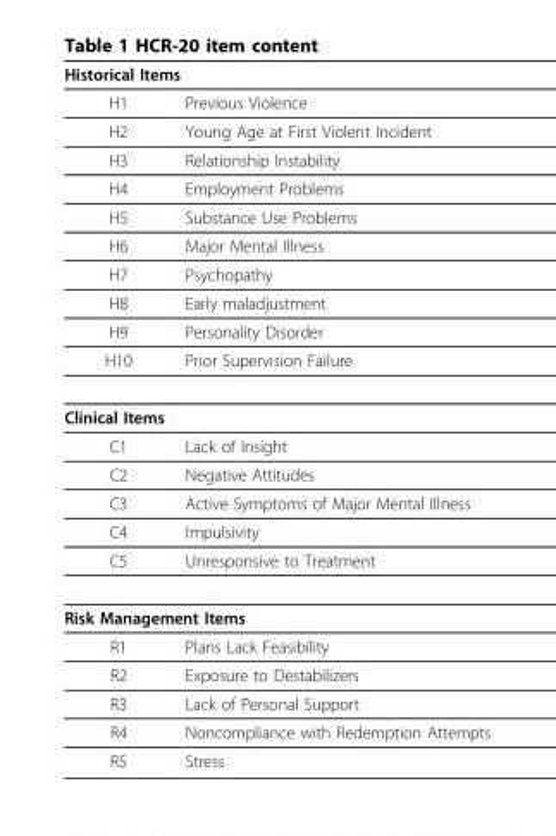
<table><thead><tr><td colspan="2">Historical Items</td></tr><tr><td>H1</td><td>Previous Violence</td></tr></thead><tbody><tr><td>H2</td><td>Young Age at First Violent Incident</td></tr><tr><td>H3</td><td>Relationship Instability</td></tr><tr><td>H4</td><td>Employment Problems</td></tr><tr><td>H5</td><td>Substance Use Problems</td></tr><tr><td>H6</td><td>Major Mental Illness</td></tr><tr><td>H7</td><td>Psychopathy</td></tr><tr><td>H8</td><td>Early maladjustment</td></tr><tr><td>H9</td><td>Personality Disorder</td></tr><tr><td>H10</td><td>Prior Supervision Failure</td></tr><tr><td colspan="2">Clinical Items</td></tr><tr><td>C1</td><td>Lack of Insight</td></tr><tr><td>C2</td><td>Negative Attitudes</td></tr><tr><td>C3</td><td>Active Symptoms of Major Mental Illness</td></tr><tr><td>C4</td><td>Impulsivity</td></tr><tr><td>C5</td><td>Unresponsive to Treatment</td></tr><tr><td colspan="2">Risk Management Items</td></tr><tr><td>R1</td><td>Plans Lack Feasibility</td></tr><tr><td>R2</td><td>Exposure to Destabilizers</td></tr><tr><td>R3</td><td>Lack of Personal Support</td></tr><tr><td>R4</td><td>Noncompliance with Redemption Attempts</td></tr><tr><td>R5</td><td>Stress</td></tr></tbody></table>